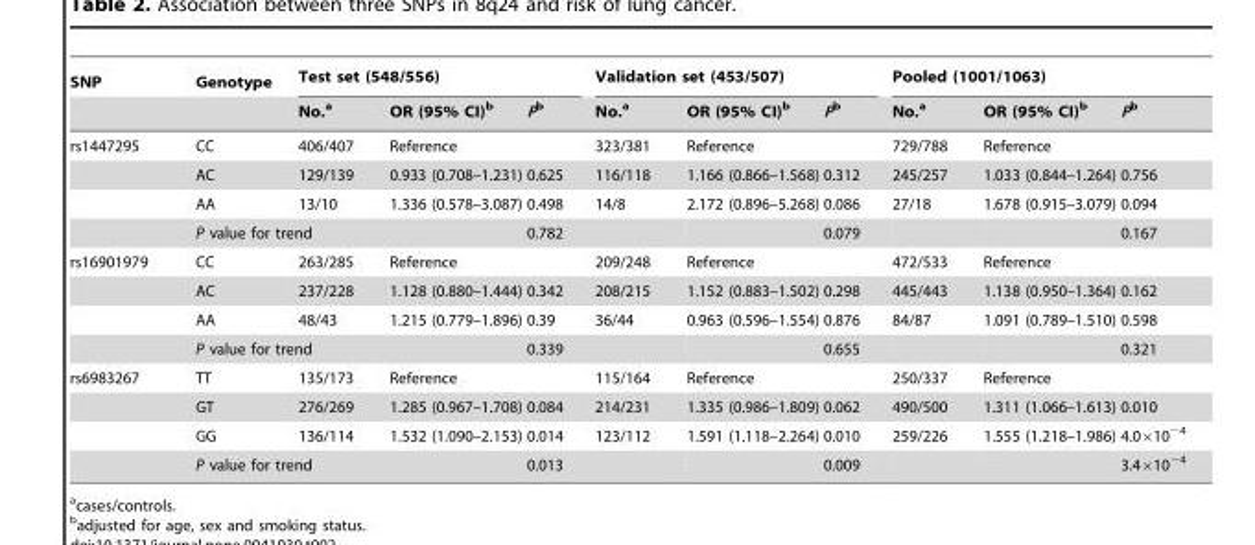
<table><thead><tr><td rowspan="2">SNP</td><td rowspan="2">Genotype</td><td colspan="3">Test set (548/556)</td><td colspan="3">Validation set (453/507)</td><td colspan="3">Pooled (1001/1063)</td></tr><tr><td>No.<sup>a</sup></td><td>OR (95% CI)<sup>b</sup></td><td>Pb</td><td>No.<sup>a</sup></td><td>OR (95% CI)<sup>b</sup></td><td>Pb</td><td>No.<sup>a</sup></td><td>OR (95% CI)<sup>b</sup></td><td>Pb</td></tr></thead><tbody><tr><td rowspan="4">rs1447295</td><td>CC</td><td>406/407</td><td>Reference</td><td></td><td>323/381</td><td>Reference</td><td></td><td>729/788</td><td>Reference</td><td></td></tr><tr><td>AC</td><td>129/139</td><td>0.933 (0.708–1.231)</td><td>0.625</td><td>116/118</td><td>1.166 (0.866–1.568)</td><td>0.312</td><td>245/257</td><td>1.033 (0.844–1.264)</td><td>0.756</td></tr><tr><td>AA</td><td>13/10</td><td>1.336 (0.578–3.087)</td><td>0.498</td><td>14/8</td><td>2.172 (0.896–5.268)</td><td>0.086</td><td>27/18</td><td>1.678 (0.915–3.079)</td><td>0.094</td></tr><tr><td colspan="3">P value for trend</td><td>0.782</td><td></td><td></td><td>0.079</td><td></td><td></td><td>0.167</td></tr><tr><td rowspan="4">rs16901979</td><td>CC</td><td>263/285</td><td>Reference</td><td></td><td>209/248</td><td>Reference</td><td></td><td>472/533</td><td>Reference</td><td></td></tr><tr><td>AC</td><td>237/228</td><td>1.128 (0.880–1.444)</td><td>0.342</td><td>208/215</td><td>1.152 (0.883–1.502)</td><td>0.298</td><td>445/443</td><td>1.138 (0.950–1.364)</td><td>0.162</td></tr><tr><td>AA</td><td>48/43</td><td>1.215 (0.779–1.896)</td><td>0.39</td><td>36/44</td><td>0.963 (0.596–1.554)</td><td>0.876</td><td>84/87</td><td>1.091 (0.789–1.510)</td><td>0.598</td></tr><tr><td colspan="3">P value for trend</td><td>0.339</td><td></td><td></td><td>0.655</td><td></td><td></td><td>0.321</td></tr><tr><td rowspan="4">rs6983267</td><td>TT</td><td>135/173</td><td>Reference</td><td></td><td>115/164</td><td>Reference</td><td></td><td>250/337</td><td>Reference</td><td></td></tr><tr><td>GT</td><td>276/269</td><td>1.285 (0.967–1.708)</td><td>0.084</td><td>214/231</td><td>1.335 (0.986–1.809)</td><td>0.062</td><td>490/500</td><td>1.311 (1.066–1.613)</td><td>0.010</td></tr><tr><td>GG</td><td>136/114</td><td>1.532 (1.090–2.153)</td><td>0.014</td><td>123/112</td><td>1.591 (1.118–2.264)</td><td>0.010</td><td>259/226</td><td>1.555 (1.218–1.986)</td><td>4.0×10<sup>−4</sup></td></tr><tr><td colspan="3">P value for trend</td><td>0.013</td><td></td><td></td><td>0.009</td><td></td><td></td><td>3.4×10<sup>−4</sup></td></tr></tbody></table>